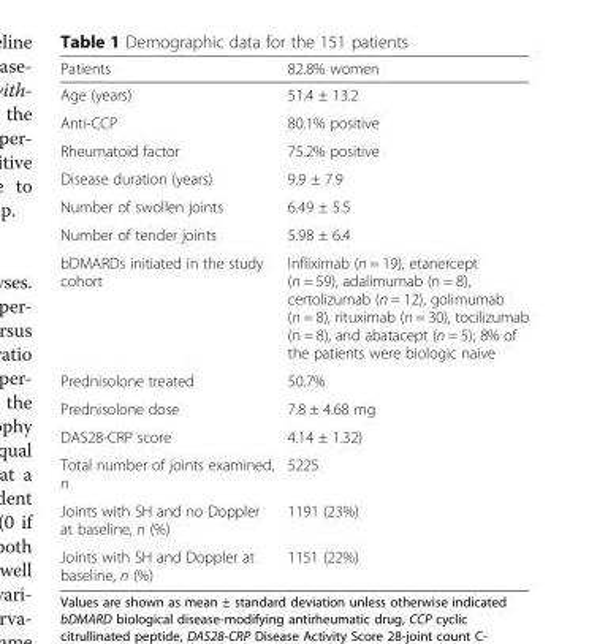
<table><thead><tr><td>Patients</td><td>82.8% women</td></tr></thead><tbody><tr><td>Age (years)</td><td>51.4 ± 13.2</td></tr><tr><td>Anti-CCP</td><td>80.1% positive</td></tr><tr><td>Rheumatoid factor</td><td>75.2% positive</td></tr><tr><td>Disease duration (years)</td><td>9.9 ± 7.9</td></tr><tr><td>Number of swollen joints</td><td>6.49 ± 5.5</td></tr><tr><td>Number of tender joints</td><td>5.98 ± 6.4</td></tr><tr><td>bDMARDs initiated in the study cohort</td><td>Infliximab (n = 19), etanercept (n = 59), adalimumab (n = 8), certolizumab (n = 12), golimumab (n = 8), rituximab (n = 30), tocilizumab (n = 8), and abatacept (n = 5); 8% of the patients were biologic naive</td></tr><tr><td>Prednisolone treated</td><td>50.7%</td></tr><tr><td>Prednisolone dose</td><td>7.8 ± 4.68 mg</td></tr><tr><td>DAS28-CRP score</td><td>4.14 ± 1.32)</td></tr><tr><td>Total number of joints examined, n</td><td>5225</td></tr><tr><td>Joints with SH and no Doppler at baseline, n (%)</td><td>1191 (23%)</td></tr><tr><td>Joints with SH and Doppler at baseline, n (%)</td><td>1151 (22%)</td></tr></tbody></table>